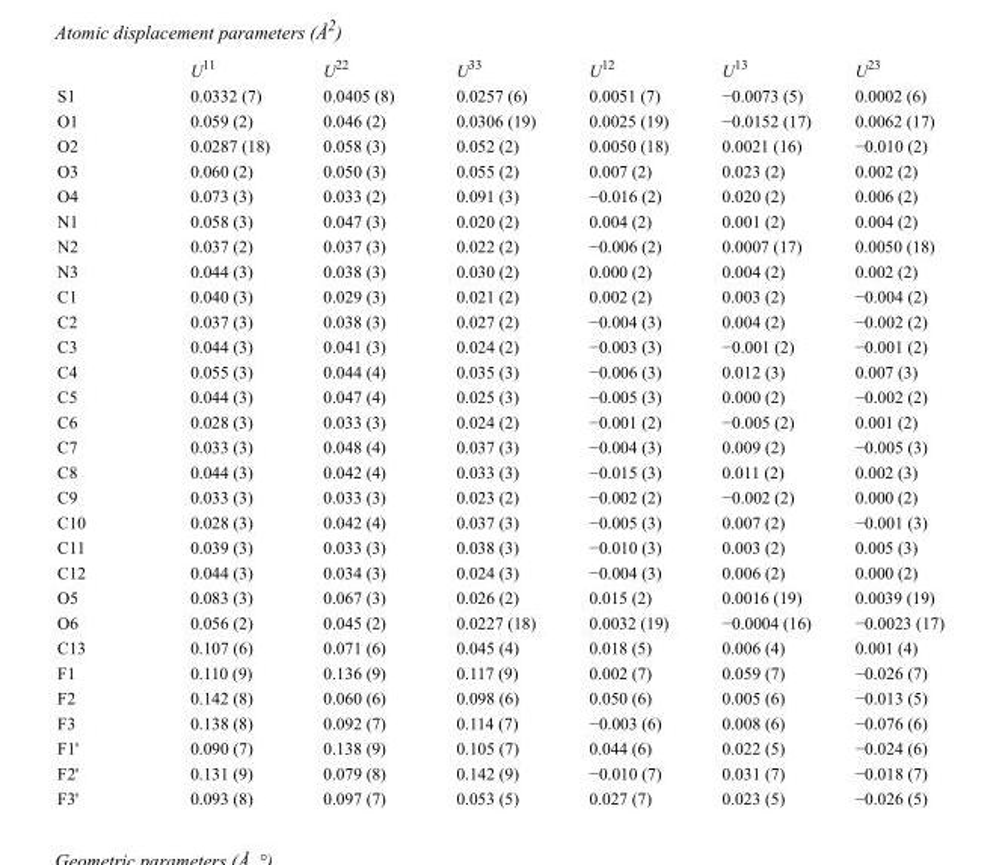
<table><thead><tr><td></td><td>U<sup>11</sup></td><td>U<sup>22</sup></td><td>U<sup>33</sup></td><td>U<sup>12</sup></td><td>U<sup>13</sup></td><td>U<sup>23</sup></td></tr></thead><tbody><tr><td>S1</td><td>0.0332 (7)</td><td>0.0405 (8)</td><td>0.0257 (6)</td><td>0.0051 (7)</td><td>−0.0073 (5)</td><td>0.0002 (6)</td></tr><tr><td>O1</td><td>0.059 (2)</td><td>0.046 (2)</td><td>0.0306 (19)</td><td>0.0025 (19)</td><td>−0.0152 (17)</td><td>0.0062 (17)</td></tr><tr><td>O2</td><td>0.0287 (18)</td><td>0.058 (3)</td><td>0.052 (2)</td><td>0.0050 (18)</td><td>0.0021 (16)</td><td>−0.010 (2)</td></tr><tr><td>O3</td><td>0.060 (2)</td><td>0.050 (3)</td><td>0.055 (2)</td><td>0.007 (2)</td><td>0.023 (2)</td><td>0.002 (2)</td></tr><tr><td>O4</td><td>0.073 (3)</td><td>0.033 (2)</td><td>0.091 (3)</td><td>−0.016 (2)</td><td>0.020 (2)</td><td>0.006 (2)</td></tr><tr><td>N1</td><td>0.058 (3)</td><td>0.047 (3)</td><td>0.020 (2)</td><td>0.004 (2)</td><td>0.001 (2)</td><td>0.004 (2)</td></tr><tr><td>N2</td><td>0.037 (2)</td><td>0.037 (3)</td><td>0.022 (2)</td><td>−0.006 (2)</td><td>0.0007 (17)</td><td>0.0050 (18)</td></tr><tr><td>N3</td><td>0.044 (3)</td><td>0.038 (3)</td><td>0.030 (2)</td><td>0.000 (2)</td><td>0.004 (2)</td><td>0.002 (2)</td></tr><tr><td>C1</td><td>0.040 (3)</td><td>0.029 (3)</td><td>0.021 (2)</td><td>0.002 (2)</td><td>0.003 (2)</td><td>−0.004 (2)</td></tr><tr><td>C2</td><td>0.037 (3)</td><td>0.038 (3)</td><td>0.027 (2)</td><td>−0.004 (3)</td><td>0.004 (2)</td><td>−0.002 (2)</td></tr><tr><td>C3</td><td>0.044 (3)</td><td>0.041 (3)</td><td>0.024 (2)</td><td>−0.003 (3)</td><td>−0.001 (2)</td><td>−0.001 (2)</td></tr><tr><td>C4</td><td>0.055 (3)</td><td>0.044 (4)</td><td>0.035 (3)</td><td>−0.006 (3)</td><td>0.012 (3)</td><td>0.007 (3)</td></tr><tr><td>C5</td><td>0.044 (3)</td><td>0.047 (4)</td><td>0.025 (3)</td><td>−0.005 (3)</td><td>0.000 (2)</td><td>−0.002 (2)</td></tr><tr><td>C6</td><td>0.028 (3)</td><td>0.033 (3)</td><td>0.024 (2)</td><td>−0.001 (2)</td><td>−0.005 (2)</td><td>0.001 (2)</td></tr><tr><td>C7</td><td>0.033 (3)</td><td>0.048 (4)</td><td>0.037 (3)</td><td>−0.004 (3)</td><td>0.009 (2)</td><td>−0.005 (3)</td></tr><tr><td>C8</td><td>0.044 (3)</td><td>0.042 (4)</td><td>0.033 (3)</td><td>−0.015 (3)</td><td>0.011 (2)</td><td>0.002 (3)</td></tr><tr><td>C9</td><td>0.033 (3)</td><td>0.033 (3)</td><td>0.023 (2)</td><td>−0.002 (2)</td><td>−0.002 (2)</td><td>0.000 (2)</td></tr><tr><td>C10</td><td>0.028 (3)</td><td>0.042 (4)</td><td>0.037 (3)</td><td>−0.005 (3)</td><td>0.007 (2)</td><td>−0.001 (3)</td></tr><tr><td>C11</td><td>0.039 (3)</td><td>0.033 (3)</td><td>0.038 (3)</td><td>−0.010 (3)</td><td>0.003 (2)</td><td>0.005 (3)</td></tr><tr><td>C12</td><td>0.044 (3)</td><td>0.034 (3)</td><td>0.024 (3)</td><td>−0.004 (3)</td><td>0.006 (2)</td><td>0.000 (2)</td></tr><tr><td>O5</td><td>0.083 (3)</td><td>0.067 (3)</td><td>0.026 (2)</td><td>0.015 (2)</td><td>0.0016 (19)</td><td>0.0039 (19)</td></tr><tr><td>O6</td><td>0.056 (2)</td><td>0.045 (2)</td><td>0.0227 (18)</td><td>0.0032 (19)</td><td>−0.0004 (16)</td><td>−0.0023 (17)</td></tr><tr><td>C13</td><td>0.107 (6)</td><td>0.071 (6)</td><td>0.045 (4)</td><td>0.018 (5)</td><td>0.006 (4)</td><td>0.001 (4)</td></tr><tr><td>F1</td><td>0.110 (9)</td><td>0.136 (9)</td><td>0.117 (9)</td><td>0.002 (7)</td><td>0.059 (7)</td><td>−0.026 (7)</td></tr><tr><td>F2</td><td>0.142 (8)</td><td>0.060 (6)</td><td>0.098 (6)</td><td>0.050 (6)</td><td>0.005 (6)</td><td>−0.013 (5)</td></tr><tr><td>F3</td><td>0.138 (8)</td><td>0.092 (7)</td><td>0.114 (7)</td><td>−0.003 (6)</td><td>0.008 (6)</td><td>−0.076 (6)</td></tr><tr><td>F1&#x27;</td><td>0.090 (7)</td><td>0.138 (9)</td><td>0.105 (7)</td><td>0.044 (6)</td><td>0.022 (5)</td><td>−0.024 (6)</td></tr><tr><td>F2&#x27;</td><td>0.131 (9)</td><td>0.079 (8)</td><td>0.142 (9)</td><td>−0.010 (7)</td><td>0.031 (7)</td><td>−0.018 (7)</td></tr><tr><td>F3&#x27;</td><td>0.093 (8)</td><td>0.097 (7)</td><td>0.053 (5)</td><td>0.027 (7)</td><td>0.023 (5)</td><td>−0.026 (5)</td></tr></tbody></table>